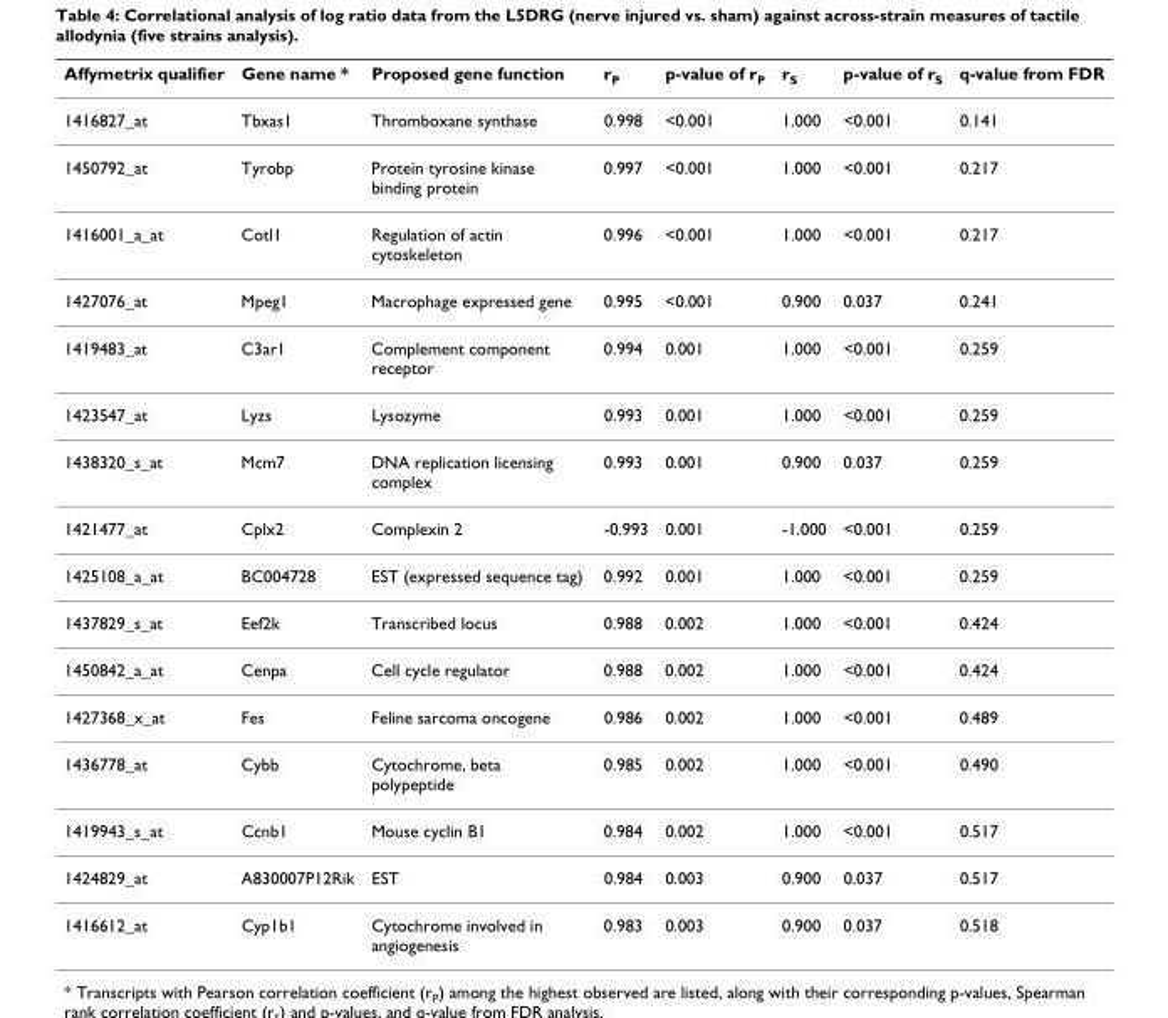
<table><thead><tr><td>Affymetrix qualifier</td><td>Gene name *</td><td>Proposed gene function</td><td>r<sub>P</sub></td><td>p-value of r<sub>P</sub></td><td>r<sub>S</sub></td><td>p-value of r<sub>S</sub></td><td>q-value from FDR</td></tr></thead><tbody><tr><td>1416827_at</td><td>Tbxas1</td><td>Thromboxane synthase</td><td>0.998</td><td>&lt;0.001</td><td>1.000</td><td>&lt;0.001</td><td>0.141</td></tr><tr><td>1450792_at</td><td>Tyrobp</td><td>Protein tyrosine kinase binding protein</td><td>0.997</td><td>&lt;0.001</td><td>1.000</td><td>&lt;0.001</td><td>0.217</td></tr><tr><td>1416001_a_at</td><td>Cotl1</td><td>Regulation of actin cytoskeleton</td><td>0.996</td><td>&lt;0.001</td><td>1.000</td><td>&lt;0.001</td><td>0.217</td></tr><tr><td>1427076_at</td><td>Mpeg1</td><td>Macrophage expressed gene</td><td>0.995</td><td>&lt;0.001</td><td>0.900</td><td>0.037</td><td>0.241</td></tr><tr><td>1419483_at</td><td>C3ar1</td><td>Complement component receptor</td><td>0.994</td><td>0.001</td><td>1.000</td><td>&lt;0.001</td><td>0.259</td></tr><tr><td>1423547_at</td><td>Lyzs</td><td>Lysozyme</td><td>0.993</td><td>0.001</td><td>1.000</td><td>&lt;0.001</td><td>0.259</td></tr><tr><td>1438320_s_at</td><td>Mcm7</td><td>DNA replication licensing complex</td><td>0.993</td><td>0.001</td><td>0.900</td><td>0.037</td><td>0.259</td></tr><tr><td>1421477_at</td><td>Cplx2</td><td>Complexin 2</td><td>-0.993</td><td>0.001</td><td>-1.000</td><td>&lt;0.001</td><td>0.259</td></tr><tr><td>1425108_a_at</td><td>BC004728</td><td>EST (expressed sequence tag)</td><td>0.992</td><td>0.001</td><td>1.000</td><td>&lt;0.001</td><td>0.259</td></tr><tr><td>1437829_s_at</td><td>Eef2k</td><td>Transcribed locus</td><td>0.988</td><td>0.002</td><td>1.000</td><td>&lt;0.001</td><td>0.424</td></tr><tr><td>1450842_a_at</td><td>Cenpa</td><td>Cell cycle regulator</td><td>0.988</td><td>0.002</td><td>1.000</td><td>&lt;0.001</td><td>0.424</td></tr><tr><td>1427368_x_at</td><td>Fes</td><td>Feline sarcoma oncogene</td><td>0.986</td><td>0.002</td><td>1.000</td><td>&lt;0.001</td><td>0.489</td></tr><tr><td>1436778_at</td><td>Cybb</td><td>Cytochrome, beta polypeptide</td><td>0.985</td><td>0.002</td><td>1.000</td><td>&lt;0.001</td><td>0.490</td></tr><tr><td>1419943_s_at</td><td>Ccnb1</td><td>Mouse cyclin B1</td><td>0.984</td><td>0.002</td><td>1.000</td><td>&lt;0.001</td><td>0.517</td></tr><tr><td>1424829_at</td><td>A830007P12Rik</td><td>EST</td><td>0.984</td><td>0.003</td><td>0.900</td><td>0.037</td><td>0.517</td></tr><tr><td>1416612_at</td><td>Cyp1b1</td><td>Cytochrome involved in angiogenesis</td><td>0.983</td><td>0.003</td><td>0.900</td><td>0.037</td><td>0.518</td></tr></tbody></table>